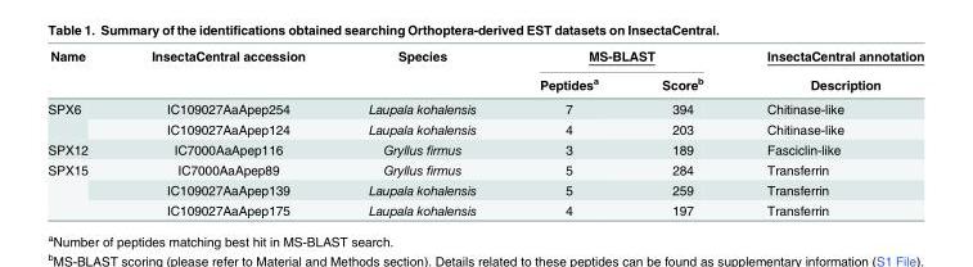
<table><thead><tr><td rowspan="2">Name</td><td rowspan="2">InsectaCentral accession</td><td rowspan="2">Species</td><td colspan="2">MS-BLAST</td><td rowspan="2">InsectaCentral annotation Description</td></tr><tr><td>Peptides<sup>a</sup></td><td>Score<sup>b</sup></td></tr></thead><tbody><tr><td rowspan="2">SPX6</td><td>IC109027AaApep254</td><td>Laupala kohalensis</td><td>7</td><td>394</td><td>Chitinase-like</td></tr><tr><td>IC109027AaApep124</td><td>Laupala kohalensis</td><td>4</td><td>203</td><td>Chitinase-like</td></tr><tr><td>SPX12</td><td>IC7000AaApep116</td><td>Gryllus firmus</td><td>3</td><td>189</td><td>Fasciclin-like</td></tr><tr><td rowspan="3">SPX15</td><td>IC7000AaApep89</td><td>Gryllus firmus</td><td>5</td><td>284</td><td>Transferrin</td></tr><tr><td>IC109027AaApep139</td><td>Laupala kohalensis</td><td>5</td><td>259</td><td>Transferrin</td></tr><tr><td>IC109027AaApep175</td><td>Laupala kohalensis</td><td>4</td><td>197</td><td>Transferrin</td></tr></tbody></table>